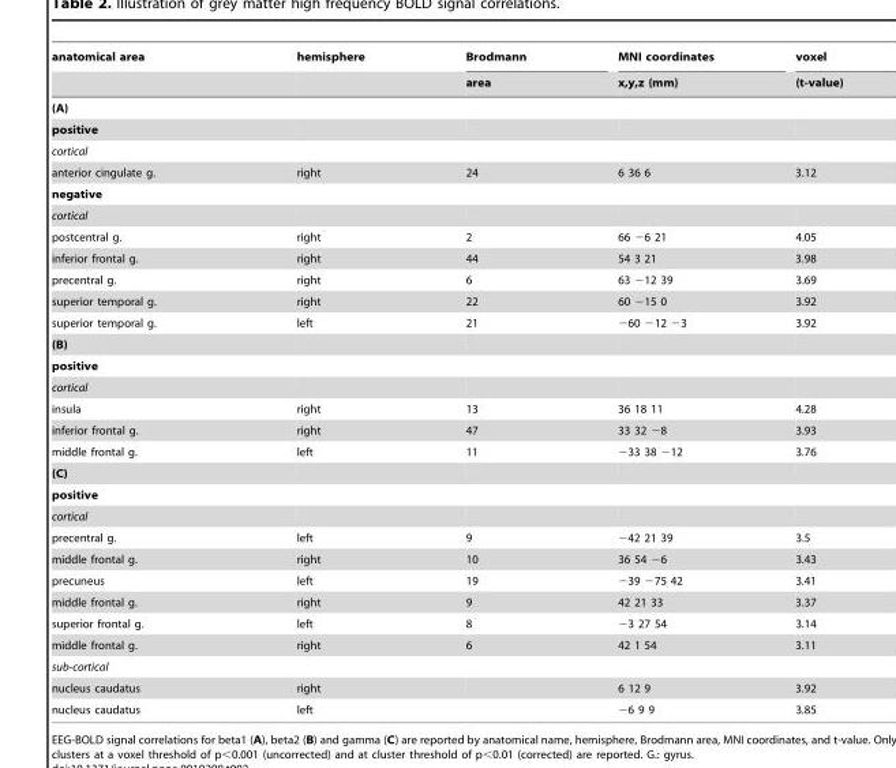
<table><thead><tr><td rowspan="2">anatomical area</td><td rowspan="2">hemisphere</td><td rowspan="2">Brodmann area</td><td rowspan="2">MNI coordinates x,y,z {mm}</td><td rowspan="2">voxel (t-value)</td></tr><tr></tr></thead><tbody><tr><td colspan="5">(A)</td></tr><tr><td colspan="5">positive</td></tr><tr><td colspan="5">cortical</td></tr><tr><td>anterior cingulate g.</td><td>right</td><td>24</td><td>6 36 6</td><td>3.12</td></tr><tr><td colspan="5">negative</td></tr><tr><td colspan="5">cortical</td></tr><tr><td>postcentral g.</td><td>right</td><td>2</td><td>66 −6 21</td><td>4.05</td></tr><tr><td>inferior frontal g.</td><td>right</td><td>44</td><td>54 3 21</td><td>3.98</td></tr><tr><td>precentral g.</td><td>right</td><td>6</td><td>63 −12 39</td><td>3.69</td></tr><tr><td>superior temporal g.</td><td>right</td><td>22</td><td>60 −15 0</td><td>3.92</td></tr><tr><td>superior temporal g.</td><td>left</td><td>21</td><td>−60 −12 −3</td><td>3.92</td></tr><tr><td colspan="5">(B)</td></tr><tr><td colspan="5">positive</td></tr><tr><td colspan="5">cortical</td></tr><tr><td>insula</td><td>right</td><td>13</td><td>36 18 11</td><td>4.28</td></tr><tr><td>inferior frontal g.</td><td>right</td><td>47</td><td>33 32 −8</td><td>3.93</td></tr><tr><td>middle frontal g.</td><td>left</td><td>11</td><td>−33 38 −12</td><td>3.76</td></tr><tr><td colspan="5">(C)</td></tr><tr><td colspan="5">positive</td></tr><tr><td colspan="5">cortical</td></tr><tr><td>precentral g.</td><td>left</td><td>9</td><td>−42 21 39</td><td>3.5</td></tr><tr><td>middle frontal g.</td><td>right</td><td>10</td><td>36 54 −6</td><td>3.43</td></tr><tr><td>precuneus</td><td>left</td><td>19</td><td>−39 −75 42</td><td>3.41</td></tr><tr><td>middle frontal g.</td><td>right</td><td>9</td><td>42 21 33</td><td>3.37</td></tr><tr><td>superior frontal g.</td><td>left</td><td>8</td><td>−3 27 54</td><td>3.14</td></tr><tr><td>middle frontal g.</td><td>right</td><td>6</td><td>42 1 54</td><td>3.11</td></tr><tr><td colspan="5">sub-cortical</td></tr><tr><td>nucleus caudatus</td><td>right</td><td></td><td>6 12 9</td><td>3.92</td></tr><tr><td>nucleus caudatus</td><td>left</td><td></td><td>−6 9 9</td><td>3.85</td></tr></tbody></table>